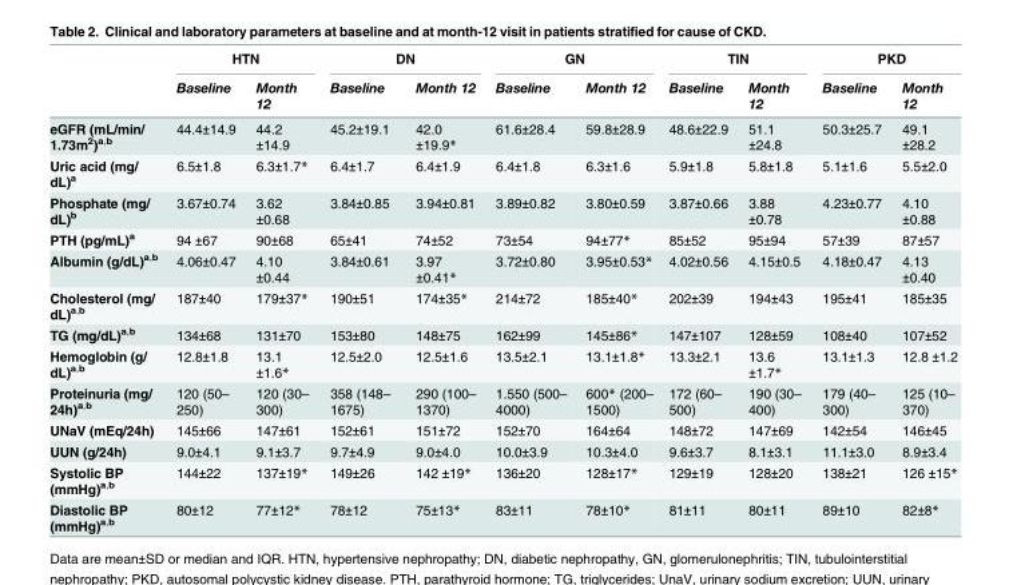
<table><thead><tr><td rowspan="2"></td><td colspan="2">HTN</td><td colspan="2">DN</td><td colspan="2">GN</td><td colspan="2">TIN</td><td colspan="2">PKD</td></tr><tr><td>Baseline</td><td>Month 12</td><td>Baseline</td><td>Month 12</td><td>Baseline</td><td>Month 12</td><td>Baseline</td><td>Month 12</td><td>Baseline</td><td>Month 12</td></tr></thead><tbody><tr><td>eGFR (mL/min/ 1.73m<sup>2</sup>)<sup>a,b</sup></td><td>44.4±14.9</td><td>44.2 ±14.9</td><td>45.2±19.1</td><td>42.0 ±19.9*</td><td>61.6±28.4</td><td>59.8±28.9</td><td>48.6±22.9</td><td>51.1 ±24.8</td><td>50.3±25.7</td><td>49.1 ±28.2</td></tr><tr><td>Uric acid (mg/ dL)<sup>a</sup></td><td>6.5±1.8</td><td>6.3±1.7*</td><td>6.4±1.7</td><td>6.4±1.9</td><td>6.4±1.8</td><td>6.3±1.6</td><td>5.9±1.8</td><td>5.8±1.8</td><td>5.1±1.6</td><td>5.5±2.0</td></tr><tr><td>Phosphate (mg/ dL)<sup>b</sup></td><td>3.67±0.74</td><td>3.62 ±0.68</td><td>3.84±0.85</td><td>3.94±0.81</td><td>3.89±0.82</td><td>3.80±0.59</td><td>3.87±0.66</td><td>3.88 ±0.78</td><td>4.23±0.77</td><td>4.10 ±0.88</td></tr><tr><td>PTH (pg/mL)<sup>a</sup></td><td>94 ±67</td><td>90±68</td><td>65±41</td><td>74±52</td><td>73±54</td><td>94±77*</td><td>85±52</td><td>95±94</td><td>57±39</td><td>87±57</td></tr><tr><td>Albumin (g/dL)<sup>a,b</sup></td><td>4.06±0.47</td><td>4.10 ±0.44</td><td>3.84±0.61</td><td>3.97 ±0.41*</td><td>3.72±0.80</td><td>3.95±0.53*</td><td>4.02±0.56</td><td>4.15±0.5</td><td>4.18±0.47</td><td>4.13 ±0.40</td></tr><tr><td>Cholesterol (mg/ dL)<sup>a,b</sup></td><td>187±40</td><td>179±37*</td><td>190±51</td><td>174±35*</td><td>214±72</td><td>185±40*</td><td>202±39</td><td>194±43</td><td>195±41</td><td>185±35</td></tr><tr><td>TG (mg/dL)<sup>a,b</sup></td><td>134±68</td><td>131±70</td><td>153±80</td><td>148±75</td><td>162±99</td><td>145±86*</td><td>147±107</td><td>128±59</td><td>108±40</td><td>107±52</td></tr><tr><td>Hemoglobin (g/ dL)<sup>a,b</sup></td><td>12.8±1.8</td><td>13.1 ±1.6*</td><td>12.5±2.0</td><td>12.5±1.6</td><td>13.5±2.1</td><td>13.1±1.8*</td><td>13.3±2.1</td><td>13.6 ±1.7*</td><td>13.1±1.3</td><td>12.8 ±1.2</td></tr><tr><td>Proteinuria (mg/ 24h)<sup>a,b</sup></td><td>120 (50– 250)</td><td>120 (30– 300)</td><td>358 (148– 1675)</td><td>290 (100– 1370)</td><td>1.550 (500– 4000)</td><td>600* (200– 1500)</td><td>172 (60– 500)</td><td>190 (30– 400)</td><td>179 (40– 300)</td><td>125 (10– 370)</td></tr><tr><td>UNaV (mEq/24h)</td><td>145±66</td><td>147±61</td><td>152±61</td><td>151±72</td><td>152±70</td><td>164±64</td><td>148±72</td><td>147±69</td><td>142±54</td><td>146±45</td></tr><tr><td>UUN (g/24h)</td><td>9.0±4.1</td><td>9.1±3.7</td><td>9.7±4.9</td><td>9.0±4.0</td><td>10.0±3.9</td><td>10.3±4.0</td><td>9.6±3.7</td><td>8.1±3.1</td><td>11.1±3.0</td><td>8.9±3.4</td></tr><tr><td>Systolic BP (mmHg)<sup>a,b</sup></td><td>144±22</td><td>137±19*</td><td>149±26</td><td>142 ±19*</td><td>136±20</td><td>128±17*</td><td>129±19</td><td>128±20</td><td>138±21</td><td>126 ±15*</td></tr><tr><td>Diastolic BP (mmHg)<sup>a,b</sup></td><td>80±12</td><td>77±12*</td><td>78±12</td><td>75±13*</td><td>83±11</td><td>78±10*</td><td>81±11</td><td>80±11</td><td>89±10</td><td>82±8*</td></tr></tbody></table>